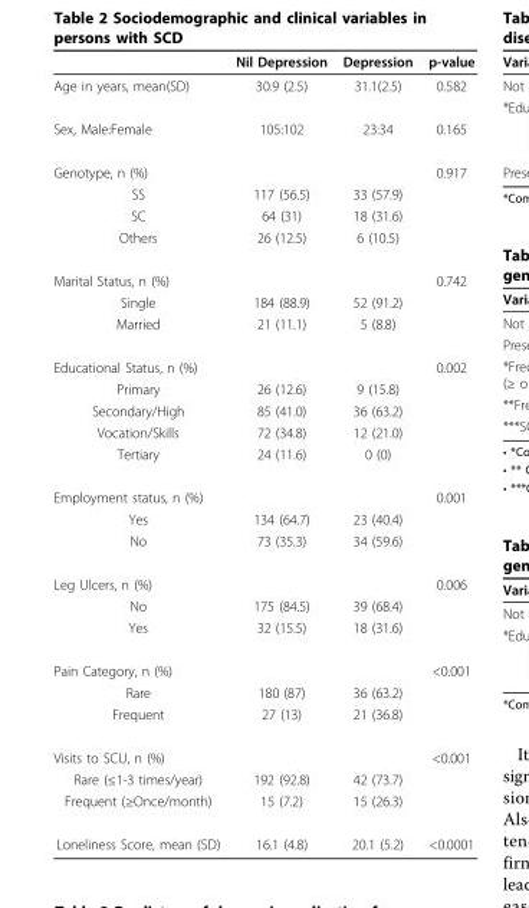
<table><thead><tr><td></td><td>Nil Depression</td><td>Depression</td><td>p-value</td></tr></thead><tbody><tr><td>Age in years, mean(SD)</td><td>30.9 (2.5)</td><td>31.1(2.5)</td><td>0.582</td></tr><tr><td>Sex, Male:Female</td><td>105:102</td><td>23:34</td><td>0.165</td></tr><tr><td>Genotype, n (%)</td><td></td><td></td><td>0.917</td></tr><tr><td>SS</td><td>117 (56.5)</td><td>33 (57.9)</td><td></td></tr><tr><td>SC</td><td>64 (31)</td><td>18 (31.6)</td><td></td></tr><tr><td>Others</td><td>26 (12.5)</td><td>6 (10.5)</td><td></td></tr><tr><td>Marital Status, n (%)</td><td></td><td></td><td>0.742</td></tr><tr><td>Single</td><td>184 (88.9)</td><td>52 (91.2)</td><td></td></tr><tr><td>Married</td><td>21 (11.1)</td><td>5 (8.8)</td><td></td></tr><tr><td>Educational Status, n (%)</td><td></td><td></td><td>0.002</td></tr><tr><td>Primary</td><td>26 (12.6)</td><td>9 (15.8)</td><td></td></tr><tr><td>Secondary/High</td><td>85 (41.0)</td><td>36 (63.2)</td><td></td></tr><tr><td>Vocation/Skills</td><td>72 (34.8)</td><td>12 (21.0)</td><td></td></tr><tr><td>Tertiary</td><td>24 (11.6)</td><td>0 (0)</td><td></td></tr><tr><td>Employment status, n (%)</td><td></td><td></td><td>0.001</td></tr><tr><td>Yes</td><td>134 (64.7)</td><td>23 (40.4)</td><td></td></tr><tr><td>No</td><td>73 (35.3)</td><td>34 (59.6)</td><td></td></tr><tr><td>Leg Ulcers, n (%)</td><td></td><td></td><td>0.006</td></tr><tr><td>No</td><td>175 (84.5)</td><td>39 (68.4)</td><td></td></tr><tr><td>Yes</td><td>32 (15.5)</td><td>18 (31.6)</td><td></td></tr><tr><td>Pain Category, n (%)</td><td></td><td></td><td>&lt;0.001</td></tr><tr><td>Rare</td><td>180 (87)</td><td>36 (63.2)</td><td></td></tr><tr><td>Frequent</td><td>27 (13)</td><td>21 (36.8)</td><td></td></tr><tr><td>Visits to SCU, n (%)</td><td></td><td></td><td>&lt;0.001</td></tr><tr><td>Rare (≤1-3 times/year)</td><td>192 (92.8)</td><td>42 (73.7)</td><td></td></tr><tr><td>Frequent (≥Once/month)</td><td>15 (7.2)</td><td>15 (26.3)</td><td></td></tr><tr><td>Loneliness Score, mean (SD)</td><td>16.1 (4.8)</td><td>20.1 (5.2)</td><td>&lt;0.0001</td></tr></tbody></table>